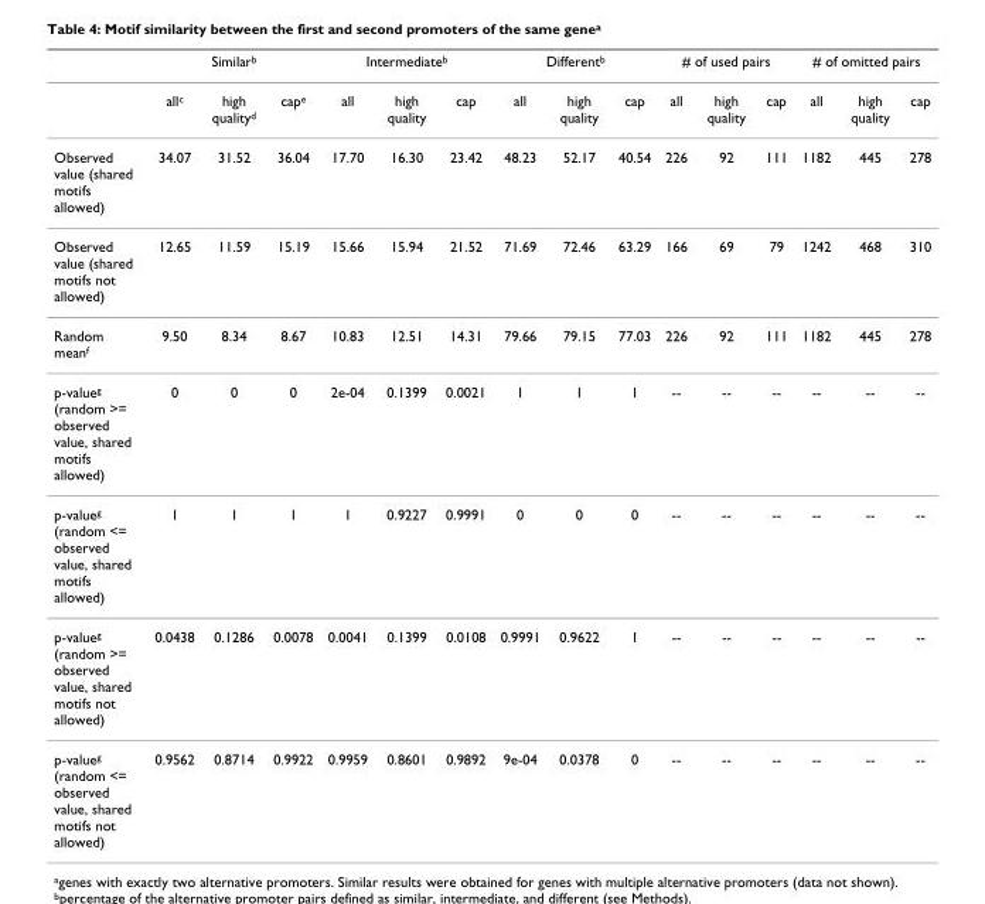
<table><thead><tr><td rowspan="2"></td><td colspan="3">Similar<sup>b</sup></td><td colspan="3">Intermediate<sup>b</sup></td><td colspan="3">Different<sup>b</sup></td><td colspan="3"># of used pairs</td><td colspan="3"># of omitted pairs</td></tr><tr><td>all<sup>c</sup></td><td>high quality<sup>d</sup></td><td>cap<sup>e</sup></td><td>all</td><td>high quality</td><td>cap</td><td>all</td><td>high quality</td><td>cap</td><td>all</td><td>high quality</td><td>cap</td><td>all</td><td>high quality</td><td>cap</td></tr></thead><tbody><tr><td>Observed value (shared motifs allowed)</td><td>34.07</td><td>31.52</td><td>36.04</td><td>17.70</td><td>16.30</td><td>23.42</td><td>48.23</td><td>52.17</td><td>40.54</td><td>226</td><td>92</td><td>111</td><td>1182</td><td>445</td><td>278</td></tr><tr><td>Observed value (shared motifs not allowed)</td><td>12.65</td><td>11.59</td><td>15.19</td><td>15.66</td><td>15.94</td><td>21.52</td><td>71.69</td><td>72.46</td><td>63.29</td><td>166</td><td>69</td><td>79</td><td>1242</td><td>468</td><td>310</td></tr><tr><td>Random mean<sup>f</sup></td><td>9.50</td><td>8.34</td><td>8.67</td><td>10.83</td><td>12.51</td><td>14.31</td><td>79.66</td><td>79.15</td><td>77.03</td><td>226</td><td>92</td><td>111</td><td>1182</td><td>445</td><td>278</td></tr><tr><td>p-value<sup>g</sup> (random &gt;= observed value, shared motifs allowed)</td><td>0</td><td>0</td><td>0</td><td>2e-04</td><td>0.1399</td><td>0.0021</td><td>1</td><td>1</td><td>1</td><td>--</td><td>--</td><td>--</td><td>--</td><td>--</td><td>--</td></tr><tr><td>p-value<sup>g</sup> (random &lt;= observed value, shared motifs allowed)</td><td>1</td><td>1</td><td>1</td><td>1</td><td>0.9227</td><td>0.9991</td><td>0</td><td>0</td><td>0</td><td>--</td><td>--</td><td>--</td><td>--</td><td>--</td><td>--</td></tr><tr><td>p-value<sup>g</sup> (random &gt;= observed value, shared motifs not allowed)</td><td>0.0438</td><td>0.1286</td><td>0.0078</td><td>0.0041</td><td>0.1399</td><td>0.0108</td><td>0.9991</td><td>0.9622</td><td>1</td><td>--</td><td>--</td><td>--</td><td>--</td><td>--</td><td>--</td></tr><tr><td>p-value<sup>g</sup> (random &lt;= observed value, shared motifs not allowed)</td><td>0.9562</td><td>0.8714</td><td>0.9922</td><td>0.9959</td><td>0.8601</td><td>0.9892</td><td>9e-04</td><td>0.0378</td><td>0</td><td>--</td><td>--</td><td>--</td><td>--</td><td>--</td><td>--</td></tr></tbody></table>